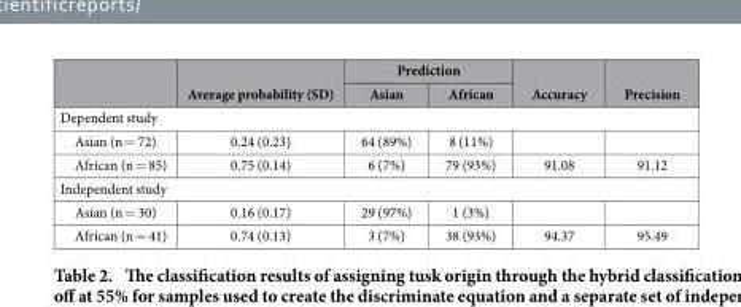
<table><thead><tr><td rowspan="2"></td><td rowspan="2">Average probability (SD)</td><td colspan="2">Prediction</td><td rowspan="2">Accuracy</td><td rowspan="2">Precision</td></tr><tr><td>Asian</td><td>African</td></tr></thead><tbody><tr><td colspan="6">Dependent study</td></tr><tr><td>Asian (n = 72)</td><td>0.24 (0.23)</td><td>64 (89%)</td><td>8 (11%)</td><td></td><td></td></tr><tr><td>African (n = 85)</td><td>0.75 (0.14)</td><td>6 (7%)</td><td>79 (93%)</td><td>91.08</td><td>91.12</td></tr><tr><td colspan="6">Independent study</td></tr><tr><td>Asian (n = 30)</td><td>0.16 (0.17)</td><td>29 (97%)</td><td>1 (3%)</td><td></td><td></td></tr><tr><td>African (n = 41)</td><td>0.74 (0.13)</td><td>3 (7%)</td><td>38 (93%)</td><td>94.37</td><td>95.49</td></tr></tbody></table>